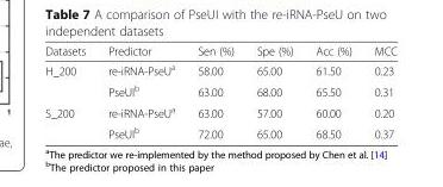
<table><thead><tr><td>Datasets</td><td>Predictor</td><td>Sen (%)</td><td>Spe (%)</td><td>Acc (%)</td><td>MCC</td></tr></thead><tbody><tr><td rowspan="2">H_200</td><td>re-iRNA-PseU<sup>a</sup></td><td>58.00</td><td>65.00</td><td>61.50</td><td>0.23</td></tr><tr><td>PseUI<sup>b</sup></td><td>63.00</td><td>68.00</td><td>65.50</td><td>0.31</td></tr><tr><td rowspan="2">S_200</td><td>re-iRNA-PseU<sup>a</sup></td><td>63.00</td><td>57.00</td><td>60.00</td><td>0.20</td></tr><tr><td>PseUI<sup>b</sup></td><td>72.00</td><td>65.00</td><td>68.50</td><td>0.37</td></tr></tbody></table>